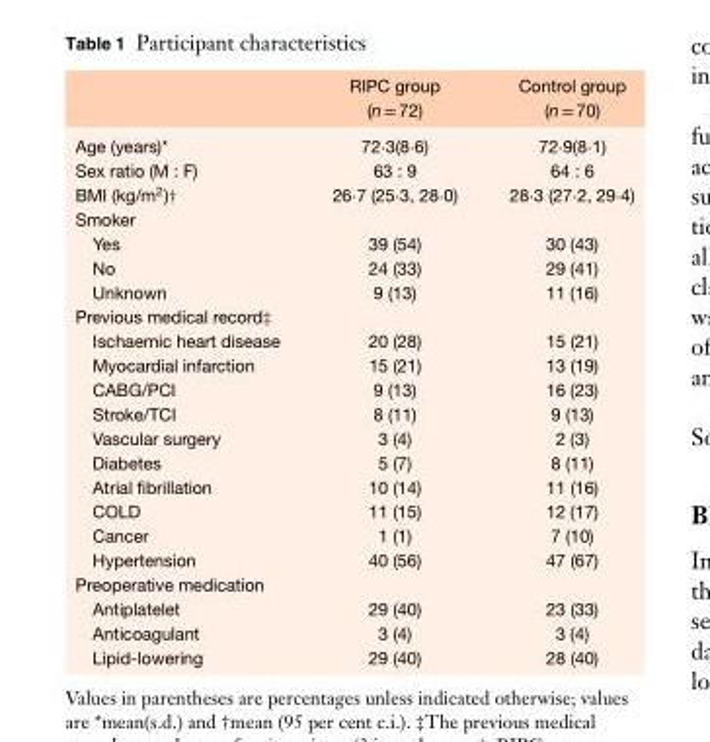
<table><thead><tr><td rowspan="2"></td><td rowspan="2">RIPC group (n = 72)</td><td rowspan="2">Control group (n = 70)</td></tr><tr></tr></thead><tbody><tr><td>Age (years)*</td><td>72⋅3(8⋅6)</td><td>72⋅9(8⋅1)</td></tr><tr><td>Sex ratio (M : F)</td><td>63 : 9</td><td>64 : 6</td></tr><tr><td>BMI (kg/m<sup>2</sup>)†</td><td>26⋅7 (25⋅3, 28⋅0)</td><td>28⋅3 (27⋅2, 29⋅4)</td></tr><tr><td colspan="3">Smoker</td></tr><tr><td>Yes</td><td>39 (54)</td><td>30 (43)</td></tr><tr><td>No</td><td>24 (33)</td><td>29 (41)</td></tr><tr><td>Unknown</td><td>9 (13)</td><td>11 (16)</td></tr><tr><td colspan="3">Previous medical record‡</td></tr><tr><td>Ischaemic heart disease</td><td>20 (28)</td><td>15 (21)</td></tr><tr><td>Myocardial infarction</td><td>15 (21)</td><td>13 (19)</td></tr><tr><td>CABG/PCI</td><td>9 (13)</td><td>16 (23)</td></tr><tr><td>Stroke/TCI</td><td>8 (11)</td><td>9 (13)</td></tr><tr><td>Vascular surgery</td><td>3 (4)</td><td>2 (3)</td></tr><tr><td>Diabetes</td><td>5 (7)</td><td>8 (11)</td></tr><tr><td>Atrial fibrillation</td><td>10 (14)</td><td>11 (16)</td></tr><tr><td>COLD</td><td>11 (15)</td><td>12 (17)</td></tr><tr><td>Cancer</td><td>1 (1)</td><td>7 (10)</td></tr><tr><td>Hypertension</td><td>40 (56)</td><td>47 (67)</td></tr><tr><td colspan="3">Preoperative medication</td></tr><tr><td>Antiplatelet</td><td>29 (40)</td><td>23 (33)</td></tr><tr><td>Anticoagulant</td><td>3 (4)</td><td>3 (4)</td></tr><tr><td>Lipid-lowering</td><td>29 (40)</td><td>28 (40)</td></tr></tbody></table>